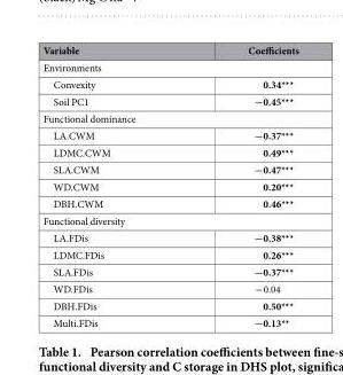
<table><thead><tr><td>Variable</td><td>Coefficients</td></tr></thead><tbody><tr><td colspan="2">Environments</td></tr><tr><td>Convexity</td><td>0.34***</td></tr><tr><td>Soil PC1</td><td>−0.45***</td></tr><tr><td colspan="2">Functional dominance</td></tr><tr><td>LA.CWM</td><td>−0.37***</td></tr><tr><td>LDMC.CWM</td><td>0.49***</td></tr><tr><td>SLA.CWM</td><td>−0.47***</td></tr><tr><td>WD.CWM</td><td>0.20***</td></tr><tr><td>DBH.CWM</td><td>0.46***</td></tr><tr><td colspan="2">Functional diversity</td></tr><tr><td>LA.FDis</td><td>−0.38***</td></tr><tr><td>LDMC.FDis</td><td>0.26***</td></tr><tr><td>SLA.FDis</td><td>−0.37***</td></tr><tr><td>WD.FDis</td><td>−0.04</td></tr><tr><td>DBH.FDis</td><td>0.50***</td></tr><tr><td>Multi.FDis</td><td>−0.13**</td></tr></tbody></table>